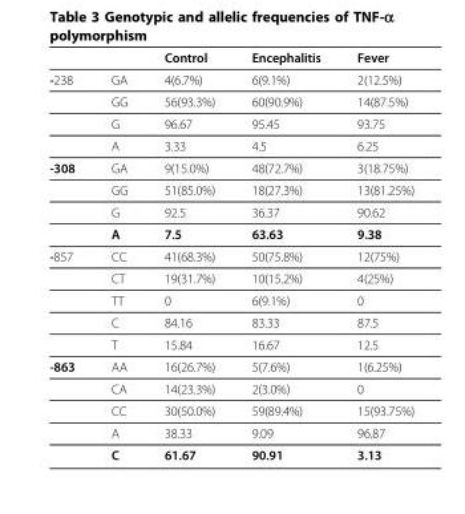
<table><thead><tr><td></td><td></td><td>Control</td><td>Encephalitis</td><td>Fever</td></tr></thead><tbody><tr><td rowspan="4">-238</td><td>GA</td><td>4(6.7%)</td><td>6(9.1%)</td><td>2(12.5%)</td></tr><tr><td>GG</td><td>56(93.3%)</td><td>60(90.9%)</td><td>14(87.5%)</td></tr><tr><td>G</td><td>96.67</td><td>95.45</td><td>93.75</td></tr><tr><td>A</td><td>3.33</td><td>4.5</td><td>6.25</td></tr><tr><td rowspan="4">-308</td><td>GA</td><td>9(15.0%)</td><td>48(72.7%)</td><td>3(18.75%)</td></tr><tr><td>GG</td><td>51(85.0%)</td><td>18(27.3%)</td><td>13(81.25%)</td></tr><tr><td>G</td><td>92.5</td><td>36.37</td><td>90.62</td></tr><tr><td>A</td><td>7.5</td><td>63.63</td><td>9.38</td></tr><tr><td rowspan="5">-857</td><td>CC</td><td>41(68.3%)</td><td>50(75.8%)</td><td>12(75%)</td></tr><tr><td>CT</td><td>19(31.7%)</td><td>10(15.2%)</td><td>4(25%)</td></tr><tr><td>TT</td><td>0</td><td>6(9.1%)</td><td>0</td></tr><tr><td>C</td><td>84.16</td><td>83.33</td><td>87.5</td></tr><tr><td>T</td><td>15.84</td><td>16.67</td><td>12.5</td></tr><tr><td rowspan="5">-863</td><td>AA</td><td>16(26.7%)</td><td>5(7.6%)</td><td>1(6.25%)</td></tr><tr><td>CA</td><td>14(23.3%)</td><td>2(3.0%)</td><td>0</td></tr><tr><td>CC</td><td>30(50.0%)</td><td>59(89.4%)</td><td>15(93.75%)</td></tr><tr><td>A</td><td>38.33</td><td>9.09</td><td>96.87</td></tr><tr><td>C</td><td>61.67</td><td>90.91</td><td>3.13</td></tr></tbody></table>